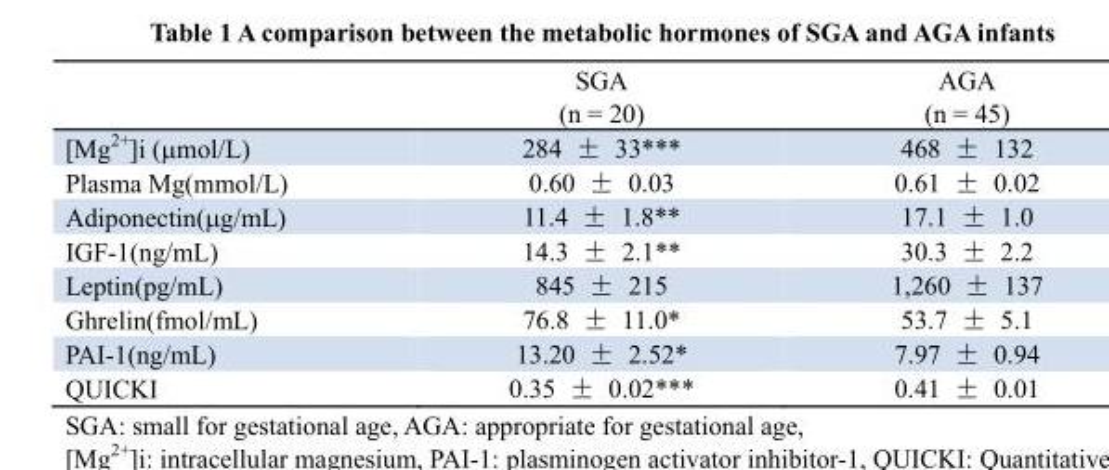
<table><thead><tr><td></td><td>SGA (n = 20)</td><td>AGA (n = 45)</td></tr></thead><tbody><tr><td>[Mg<sup>2+</sup>]i (μmol/L)</td><td>284 ± 33***</td><td>468 ± 132</td></tr><tr><td>Plasma Mg(mmol/L)</td><td>0.60 ± 0.03</td><td>0.61 ± 0.02</td></tr><tr><td>Adiponectin(μg/mL)</td><td>11.4 ± 1.8**</td><td>17.1 ± 1.0</td></tr><tr><td>IGF-1(ng/mL)</td><td>14.3 ± 2.1**</td><td>30.3 ± 2.2</td></tr><tr><td>Leptin(pg/mL)</td><td>845 ± 215</td><td>1,260 ± 137</td></tr><tr><td>Ghrelin(fmol/mL)</td><td>76.8 ± 11.0*</td><td>53.7 ± 5.1</td></tr><tr><td>PAI-1(ng/mL)</td><td>13.20 ± 2.52*</td><td>7.97 ± 0.94</td></tr><tr><td>QUICKI</td><td>0.35 ± 0.02***</td><td>0.41 ± 0.01</td></tr></tbody></table>